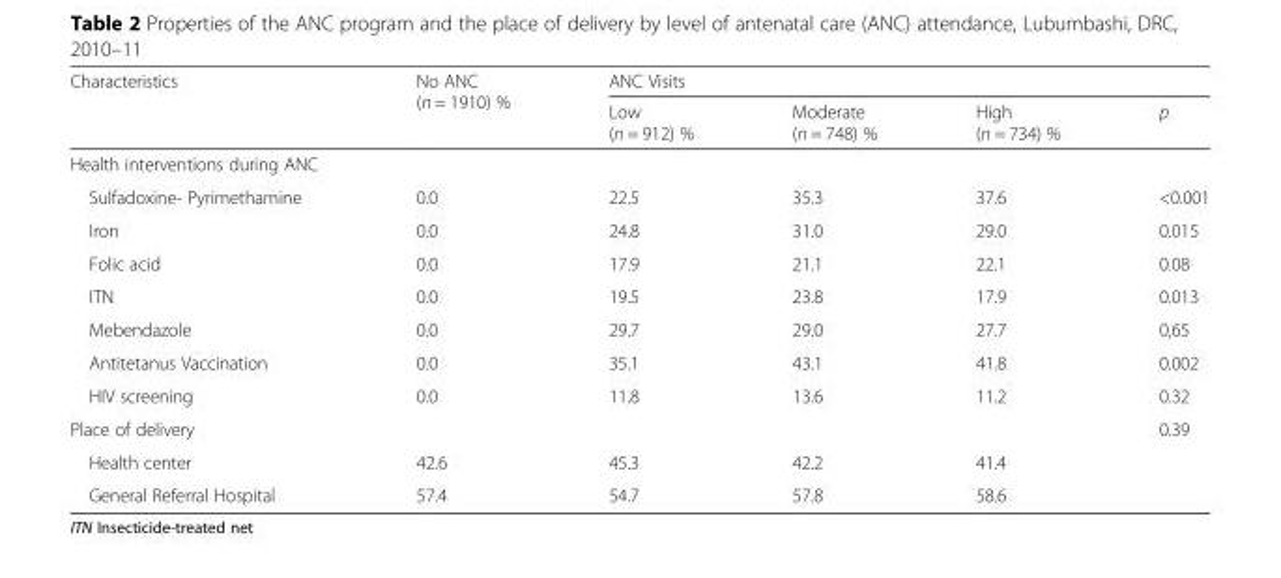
<table><thead><tr><td rowspan="2">Characteristics</td><td rowspan="2">No ANC (n = 1910) %</td><td colspan="4">ANC Visits</td></tr><tr><td>Low (n = 912) %</td><td>Moderate (n = 748) %</td><td>High (n = 734) %</td><td>p</td></tr></thead><tbody><tr><td colspan="6">Health interventions during ANC</td></tr><tr><td>Sulfadoxine- Pyrimethamine</td><td>0.0</td><td>22.5</td><td>35.3</td><td>37.6</td><td>&lt;0.001</td></tr><tr><td>Iron</td><td>0.0</td><td>24.8</td><td>31.0</td><td>29.0</td><td>0.015</td></tr><tr><td>Folic acid</td><td>0.0</td><td>17.9</td><td>21.1</td><td>22.1</td><td>0.08</td></tr><tr><td>ITN</td><td>0.0</td><td>19.5</td><td>23.8</td><td>17.9</td><td>0.013</td></tr><tr><td>Mebendazole</td><td>0.0</td><td>29.7</td><td>29.0</td><td>27.7</td><td>0,65</td></tr><tr><td>Antitetanus Vaccination</td><td>0.0</td><td>35.1</td><td>43.1</td><td>41.8</td><td>0.002</td></tr><tr><td>HIV screening</td><td>0.0</td><td>11.8</td><td>13.6</td><td>11.2</td><td>0.32</td></tr><tr><td>Place of delivery</td><td></td><td></td><td></td><td></td><td>0.39</td></tr><tr><td>Health center</td><td>42.6</td><td>45.3</td><td>42.2</td><td>41.4</td><td></td></tr><tr><td>General Referral Hospital</td><td>57.4</td><td>54.7</td><td>57.8</td><td>58.6</td><td></td></tr></tbody></table>